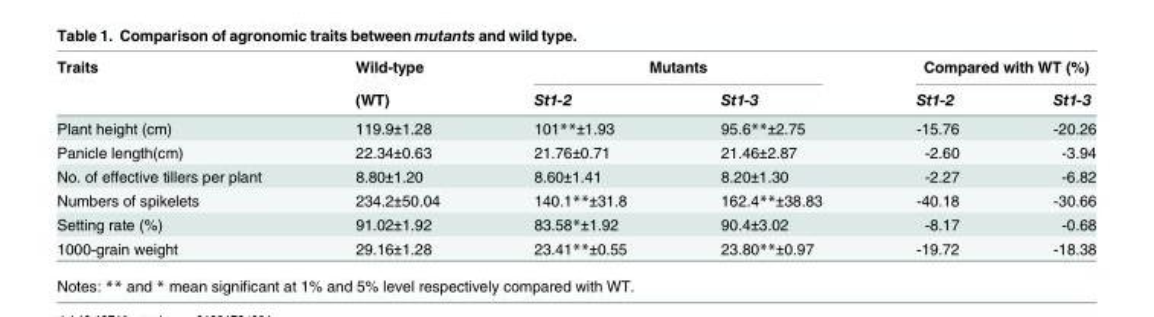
<table><thead><tr><td rowspan="2">Traits</td><td rowspan="2">Wild-type (WT)</td><td colspan="2">Mutants</td><td colspan="2">Compared with WT (%)</td></tr><tr><td>St1-2</td><td>St1-3</td><td>St1-2</td><td>St1-3</td></tr></thead><tbody><tr><td>Plant height (cm)</td><td>119.9±1.28</td><td>101**±1.93</td><td>95.6**±2.75</td><td>-15.76</td><td>-20.26</td></tr><tr><td>Panicle length(cm)</td><td>22.34±0.63</td><td>21.76±0.71</td><td>21.46±2.87</td><td>-2.60</td><td>-3.94</td></tr><tr><td>No. of effective tillers per plant</td><td>8.80±1.20</td><td>8.60±1.41</td><td>8.20±1.30</td><td>-2.27</td><td>-6.82</td></tr><tr><td>Numbers of spikelets</td><td>234.2±50.04</td><td>140.1**±31.8</td><td>162.4**±38.83</td><td>-40.18</td><td>-30.66</td></tr><tr><td>Setting rate (%)</td><td>91.02±1.92</td><td>83.58*±1.92</td><td>90.4±3.02</td><td>-8.17</td><td>-0.68</td></tr><tr><td>1000-grain weight</td><td>29.16±1.28</td><td>23.41**±0.55</td><td>23.80**±0.97</td><td>-19.72</td><td>-18.38</td></tr></tbody></table>